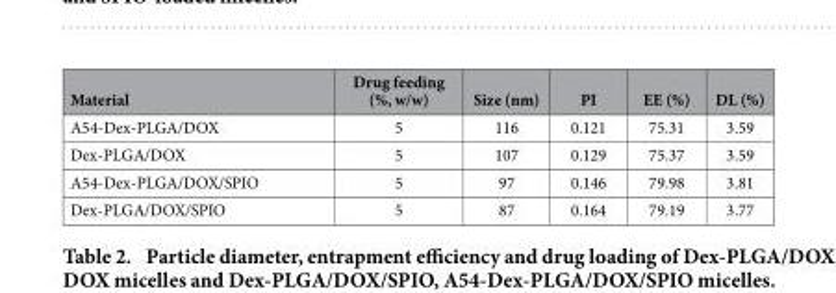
<table><thead><tr><td>Material</td><td>Drug feeding (%, w/w)</td><td>Size (nm)</td><td>PI</td><td>EE (%)</td><td>DL (%)</td></tr></thead><tbody><tr><td>A54-Dex-PLGA/DOX</td><td>5</td><td>116</td><td>0.121</td><td>75.31</td><td>3.59</td></tr><tr><td>Dex-PLGA/DOX</td><td>5</td><td>107</td><td>0.129</td><td>75.37</td><td>3.59</td></tr><tr><td>A54-Dex-PLGA/DOX/SPIO</td><td>5</td><td>97</td><td>0.146</td><td>79.98</td><td>3.81</td></tr><tr><td>Dex-PLGA/DOX/SPIO</td><td>5</td><td>87</td><td>0.164</td><td>79.19</td><td>3.77</td></tr></tbody></table>